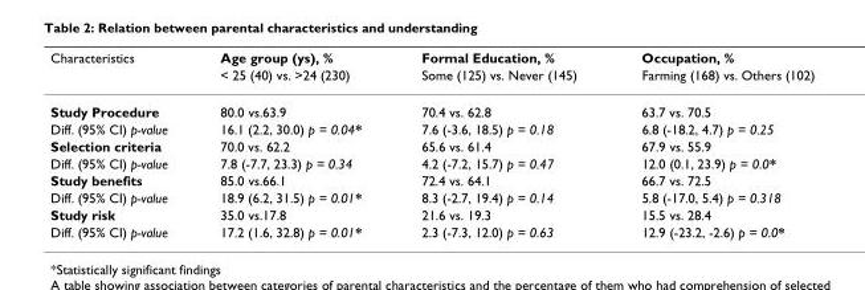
<table><thead><tr><td rowspan="2">Characteristics</td><td rowspan="2">Age group (ys), % &lt; 25 (40) vs. &gt;24 (230)</td><td rowspan="2">Formal Education, % Some (125) vs. Never (145)</td><td rowspan="2">Occupation, % Farming (168) vs. Others (102)</td></tr><tr></tr></thead><tbody><tr><td>Study Procedure</td><td>80.0 vs.63.9</td><td>70.4 vs. 62.8</td><td>63.7 vs. 70.5</td></tr><tr><td>Diff. (95% CI) p-value</td><td>16.1 (2.2, 30.0) p = 0.04*</td><td>7.6 (-3.6, 18.5) p = 0.18</td><td>6.8 (-18.2, 4.7) p = 0.25</td></tr><tr><td>Selection criteria</td><td>70.0 vs. 62.2</td><td>65.6 vs. 61.4</td><td>67.9 vs. 55.9</td></tr><tr><td>Diff. (95% CI) p-value</td><td>7.8 (-7.7, 23.3) p = 0.34</td><td>4.2 (-7.2, 15.7) p = 0.47</td><td>12.0 (0.1, 23.9) p = 0.0*</td></tr><tr><td>Study benefits</td><td>85.0 vs.66.1</td><td>72.4 vs. 64.1</td><td>66.7 vs. 72.5</td></tr><tr><td>Diff. (95% CI) p-value</td><td>18.9 (6.2, 31.5) p = 0.01*</td><td>8.3 (-2.7, 19.4) p = 0.14</td><td>5.8 (-17.0, 5.4) p = 0.318</td></tr><tr><td>Study risk</td><td>35.0 vs.17.8</td><td>21.6 vs. 19.3</td><td>15.5 vs. 28.4</td></tr><tr><td>Diff. (95% CI) p-value</td><td>17.2 (1.6, 32.8) p = 0.01*</td><td>2.3 (-7.3, 12.0) p = 0.63</td><td>12.9 (-23.2, -2.6) p = 0.0*</td></tr></tbody></table>